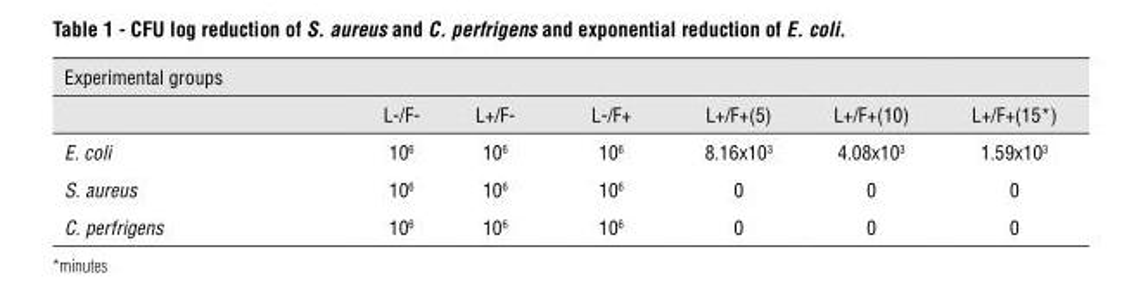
<table><thead><tr><td colspan="7">Experimental groups</td></tr><tr><td></td><td>L-/F-</td><td>L+/F-</td><td>L-/F+</td><td>L+/F+(5)</td><td>L+/F+(10)</td><td>L+/F+(15*)</td></tr></thead><tbody><tr><td>E. coli</td><td>10<sup>6</sup></td><td>10<sup>6</sup></td><td>10<sup>6</sup></td><td>8.16x103</td><td>4.08x103</td><td>1.59x103</td></tr><tr><td>S. aureus</td><td>10<sup>6</sup></td><td>10<sup>6</sup></td><td>10<sup>6</sup></td><td>0</td><td>0</td><td>0</td></tr><tr><td>C. perfrigens</td><td>10<sup>6</sup></td><td>10<sup>6</sup></td><td>10<sup>6</sup></td><td>0</td><td>0</td><td>0</td></tr></tbody></table>